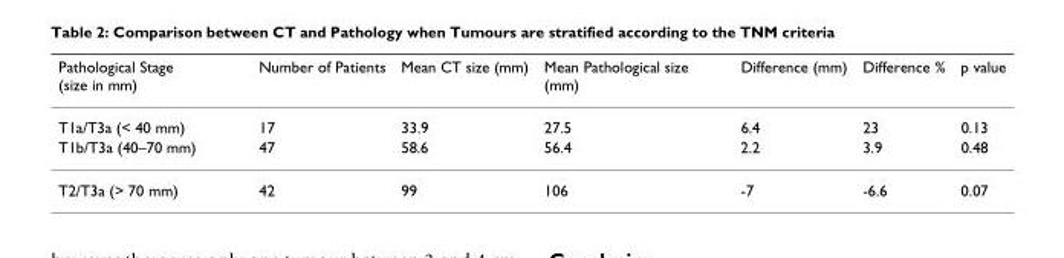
<table><thead><tr><td>Pathological Stage (size in mm)</td><td>Number of Patients</td><td>Mean CT size (mm)</td><td>Mean Pathological size (mm)</td><td>Difference (mm)</td><td>Difference %</td><td>p value</td></tr></thead><tbody><tr><td>T1a/T3a (&lt; 40 mm)</td><td>17</td><td>33.9</td><td>27.5</td><td>6.4</td><td>23</td><td>0.13</td></tr><tr><td>T1b/T3a (40–70 mm)</td><td>47</td><td>58.6</td><td>56.4</td><td>2.2</td><td>3.9</td><td>0.48</td></tr><tr><td>T2/T3a (&gt; 70 mm)</td><td>42</td><td>99</td><td>106</td><td>-7</td><td>-6.6</td><td>0.07</td></tr></tbody></table>